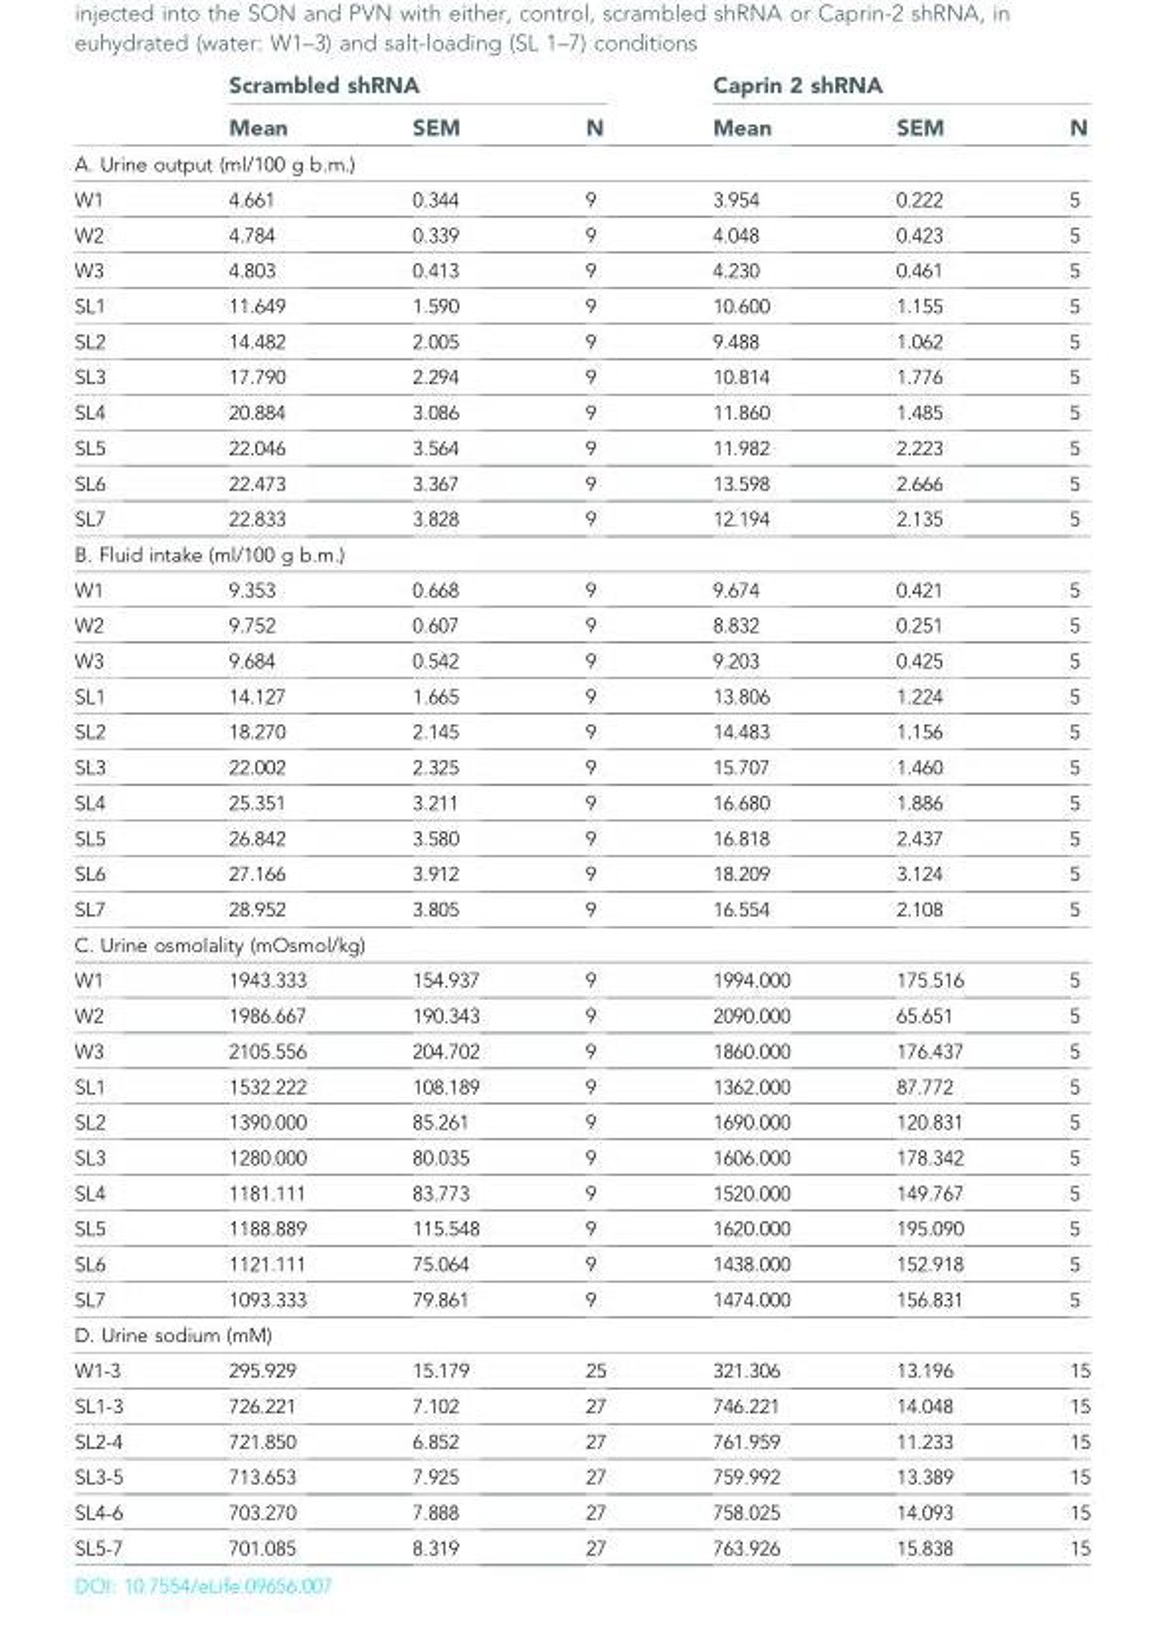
<table><thead><tr><td rowspan="2"></td><td colspan="3">Scrambled shRNA</td><td colspan="3">Caprin 2 shRNA</td></tr><tr><td>Mean</td><td>SEM</td><td>N</td><td>Mean</td><td>SEM</td><td>N</td></tr></thead><tbody><tr><td colspan="7">A. Urine output (ml/100 g b.m.)</td></tr><tr><td>W1</td><td>4.661</td><td>0.344</td><td>9</td><td>3.954</td><td>0.222</td><td>5</td></tr><tr><td>W2</td><td>4.784</td><td>0.339</td><td>9</td><td>4.048</td><td>0.423</td><td>5</td></tr><tr><td>W3</td><td>4.803</td><td>0.413</td><td>9</td><td>4.230</td><td>0.461</td><td>5</td></tr><tr><td>SL1</td><td>11.649</td><td>1.590</td><td>9</td><td>10.600</td><td>1.155</td><td>5</td></tr><tr><td>SL2</td><td>14.482</td><td>2.005</td><td>9</td><td>9.488</td><td>1.062</td><td>5</td></tr><tr><td>SL3</td><td>17.790</td><td>2.294</td><td>9</td><td>10.814</td><td>1.776</td><td>5</td></tr><tr><td>SL4</td><td>20.884</td><td>3.086</td><td>9</td><td>11.860</td><td>1.485</td><td>5</td></tr><tr><td>SL5</td><td>22.046</td><td>3.564</td><td>9</td><td>11.982</td><td>2.223</td><td>5</td></tr><tr><td>SL6</td><td>22.473</td><td>3.367</td><td>9</td><td>13.598</td><td>2.666</td><td>5</td></tr><tr><td>SL7</td><td>22.833</td><td>3.828</td><td>9</td><td>12.194</td><td>2.135</td><td>5</td></tr><tr><td colspan="7">B. Fluid intake (ml/100 g b.m.)</td></tr><tr><td>W1</td><td>9.353</td><td>0.668</td><td>9</td><td>9.674</td><td>0.421</td><td>5</td></tr><tr><td>W2</td><td>9.752</td><td>0.607</td><td>9</td><td>8.832</td><td>0.251</td><td>5</td></tr><tr><td>W3</td><td>9.684</td><td>0.542</td><td>9</td><td>9.203</td><td>0.425</td><td>5</td></tr><tr><td>SL1</td><td>14.127</td><td>1.665</td><td>9</td><td>13.806</td><td>1.224</td><td>5</td></tr><tr><td>SL2</td><td>18.270</td><td>2.145</td><td>9</td><td>14.483</td><td>1.156</td><td>5</td></tr><tr><td>SL3</td><td>22.002</td><td>2.325</td><td>9</td><td>15.707</td><td>1.460</td><td>5</td></tr><tr><td>SL4</td><td>25.351</td><td>3.211</td><td>9</td><td>16.680</td><td>1.886</td><td>5</td></tr><tr><td>SL5</td><td>26.842</td><td>3.580</td><td>9</td><td>16.818</td><td>2.437</td><td>5</td></tr><tr><td>SL6</td><td>27.166</td><td>3.912</td><td>9</td><td>18.209</td><td>3.124</td><td>5</td></tr><tr><td>SL7</td><td>28.952</td><td>3.805</td><td>9</td><td>16.554</td><td>2.108</td><td>5</td></tr><tr><td colspan="7">C. Urine osmolality (mOsmol/kg)</td></tr><tr><td>W1</td><td>1943.333</td><td>154.937</td><td>9</td><td>1994.000</td><td>175.516</td><td>5</td></tr><tr><td>W2</td><td>1986.667</td><td>190.343</td><td>9</td><td>2090.000</td><td>65.651</td><td>5</td></tr><tr><td>W3</td><td>2105.556</td><td>204.702</td><td>9</td><td>1860.000</td><td>176.437</td><td>5</td></tr><tr><td>SL1</td><td>1532.222</td><td>108.189</td><td>9</td><td>1362.000</td><td>87.772</td><td>5</td></tr><tr><td>SL2</td><td>1390.000</td><td>85.261</td><td>9</td><td>1690.000</td><td>120.831</td><td>5</td></tr><tr><td>SL3</td><td>1280.000</td><td>80.035</td><td>9</td><td>1606.000</td><td>178.342</td><td>5</td></tr><tr><td>SL4</td><td>1181.111</td><td>83.773</td><td>9</td><td>1520.000</td><td>149.767</td><td>5</td></tr><tr><td>SL5</td><td>1188.889</td><td>115.548</td><td>9</td><td>1620.000</td><td>195.090</td><td>5</td></tr><tr><td>SL6</td><td>1121.111</td><td>75.064</td><td>9</td><td>1438.000</td><td>152.918</td><td>5</td></tr><tr><td>SL7</td><td>1093.333</td><td>79.861</td><td>9</td><td>1474.000</td><td>156.831</td><td>5</td></tr><tr><td colspan="7">D. Urine sodium (mM)</td></tr><tr><td>W1-3</td><td>295.929</td><td>15.179</td><td>25</td><td>321.306</td><td>13.196</td><td>15</td></tr><tr><td>SL1-3</td><td>726.221</td><td>7.102</td><td>27</td><td>746.221</td><td>14.048</td><td>15</td></tr><tr><td>SL2-4</td><td>721.850</td><td>6.852</td><td>27</td><td>761.959</td><td>11.233</td><td>15</td></tr><tr><td>SL3-5</td><td>713.653</td><td>7.925</td><td>27</td><td>759.992</td><td>13.389</td><td>15</td></tr><tr><td>SL4-6</td><td>703.270</td><td>7.888</td><td>27</td><td>758.025</td><td>14.093</td><td>15</td></tr><tr><td>SL5-7</td><td>701.085</td><td>8.319</td><td>27</td><td>763.926</td><td>15.838</td><td>15</td></tr></tbody></table>